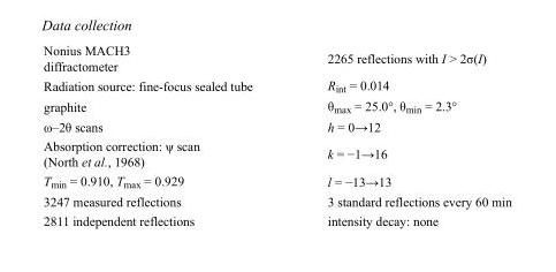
<table><tbody><tr><td>Nonius MACH3 diffractometer</td><td>2265 reflections with I &gt; 2σ(I)</td></tr><tr><td>Radiation source: fine-focus sealed tube</td><td>R<sub>int</sub> = 0.014</td></tr><tr><td>graphite</td><td>θ<sub>max</sub> = 25.0°, θ<sub>min</sub> = 2.3°</td></tr><tr><td>ω–2θ scans</td><td>h = 0→12</td></tr><tr><td>Absorption correction: ψ scan (North et al., 1968)</td><td>k = −1→16</td></tr><tr><td>T<sub>min</sub> = 0.910, T<sub>max</sub> = 0.929</td><td>l = −13→13</td></tr><tr><td>3247 measured reflections</td><td>3 standard reflections every 60 min</td></tr><tr><td>2811 independent reflections</td><td>intensity decay: none</td></tr></tbody></table>